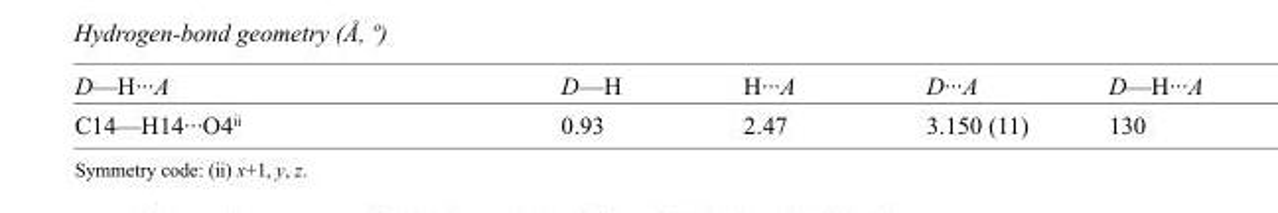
<table><tbody><tr><td>D—H···A</td><td>D—H</td><td>H···A</td><td>D···A</td><td>D—H···A</td></tr><tr><td>C14—H14···O4<sup>ii</sup></td><td>0.93</td><td>2.47</td><td>3.150 (11)</td><td>130</td></tr></tbody></table>